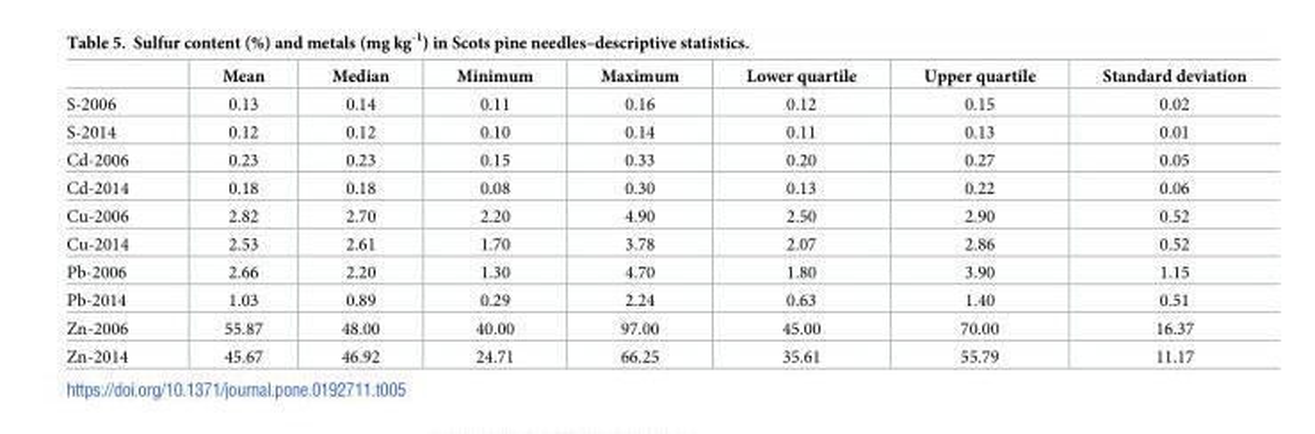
<table><thead><tr><td></td><td>Mean</td><td>Median</td><td>Minimum</td><td>Maximum</td><td>Lower quartile</td><td>Upper quartile</td><td>Standard deviation</td></tr></thead><tbody><tr><td>S-2006</td><td>0.13</td><td>0.14</td><td>0.11</td><td>0.16</td><td>0.12</td><td>0.15</td><td>0.02</td></tr><tr><td>S-2014</td><td>0.12</td><td>0.12</td><td>0.10</td><td>0.14</td><td>0.11</td><td>0.13</td><td>0.01</td></tr><tr><td>Cd-2006</td><td>0.23</td><td>0.23</td><td>0.15</td><td>0.33</td><td>0.20</td><td>0.27</td><td>0.05</td></tr><tr><td>Cd-2014</td><td>0.18</td><td>0.18</td><td>0.08</td><td>0.30</td><td>0.13</td><td>0.22</td><td>0.06</td></tr><tr><td>Cu-2006</td><td>2.82</td><td>2.70</td><td>2.20</td><td>4.90</td><td>2.50</td><td>2.90</td><td>0.52</td></tr><tr><td>Cu-2014</td><td>2.53</td><td>2.61</td><td>1.70</td><td>3.78</td><td>2.07</td><td>2.86</td><td>0.52</td></tr><tr><td>Pb-2006</td><td>2.66</td><td>2.20</td><td>1.30</td><td>4.70</td><td>1.80</td><td>3.90</td><td>1.15</td></tr><tr><td>Pb-2014</td><td>1.03</td><td>0.89</td><td>0.29</td><td>2.24</td><td>0.63</td><td>1.40</td><td>0.51</td></tr><tr><td>Zn-2006</td><td>55.87</td><td>48.00</td><td>40.00</td><td>97.00</td><td>45.00</td><td>70.00</td><td>16.37</td></tr><tr><td>Zn-2014</td><td>45.67</td><td>46.92</td><td>24.71</td><td>66.25</td><td>35.61</td><td>55.79</td><td>11.17</td></tr></tbody></table>